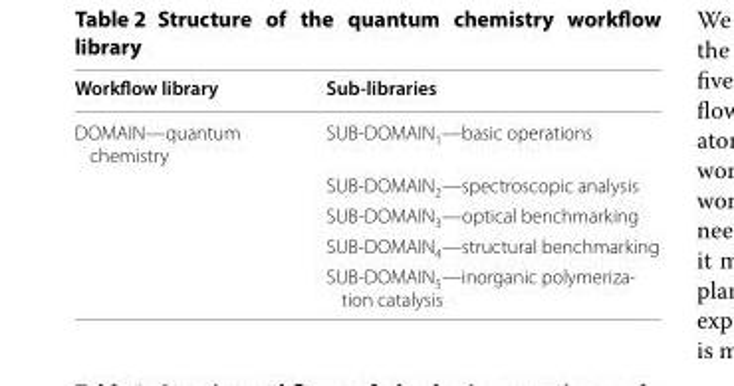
<table><thead><tr><td>Workflow library</td><td>Sub‑libraries</td></tr></thead><tbody><tr><td rowspan="5">DOMAIN—quantum chemistry</td><td>SUB‑DOMAIN<sub>1</sub>—basic operations</td></tr><tr><td>SUB‑DOMAIN<sub>2</sub>—spectroscopic analysis</td></tr><tr><td>SUB‑DOMAIN<sub>3</sub>—optical benchmarking</td></tr><tr><td>SUB‑DOMAIN<sub>4</sub>—structural benchmarking</td></tr><tr><td>SUB‑DOMAIN5—inorganic polymeriza‑ tion catalysis</td></tr></tbody></table>